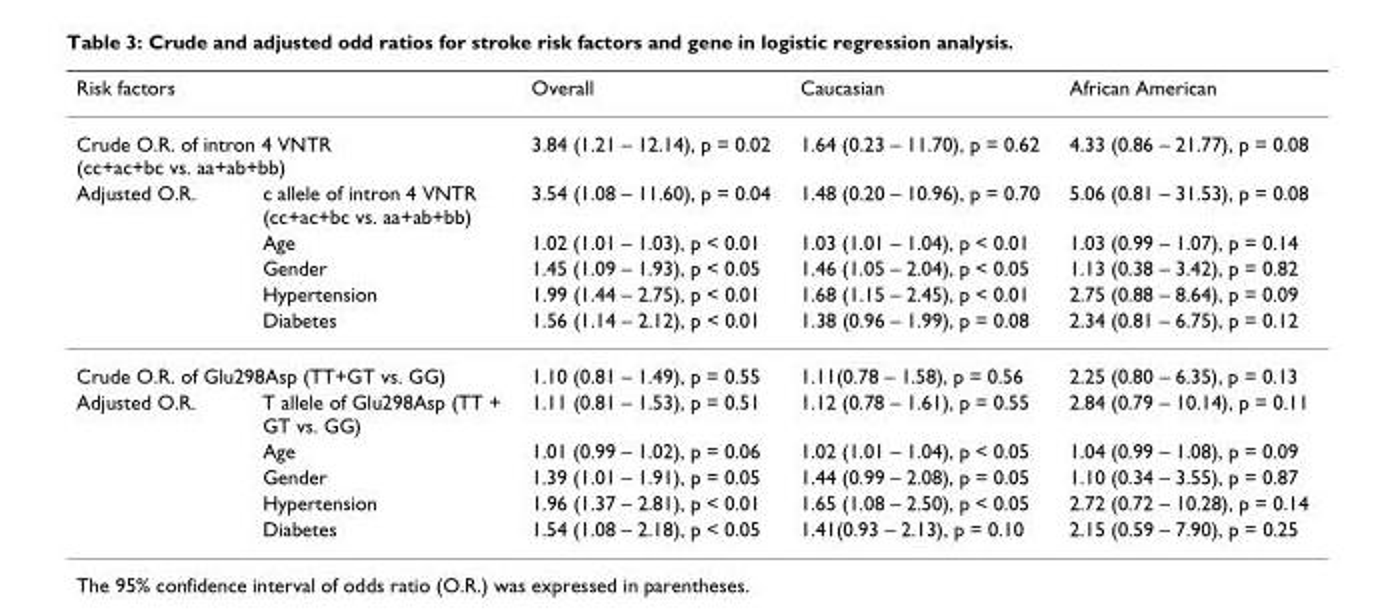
<table><thead><tr><td rowspan="2" colspan="2">Risk factors Crude O.R. of intron 4 VNTR (cc+ac+bc vs. aa+ab+bb)</td><td rowspan="3">Overall 3.84 (1.21 – 12.14), p = 0.02 3.54 (1.08 – 11.60), p = 0.04</td><td rowspan="3">Caucasian 1.64 (0.23 – 11.70), p = 0.62 1.48 (0.20 – 10.96), p = 0.70</td><td rowspan="3">African American 4.33 (0.86 – 21.77), p = 0.08 5.06 (0.81 – 31.53), p = 0.08</td></tr><tr></tr><tr><td>Adjusted O.R.</td><td>c allele of intron 4 VNTR (cc+ac+bc vs. aa+ab+bb)</td></tr></thead><tbody><tr><td></td><td>Age</td><td>1.02 (1.01 – 1.03), p &lt; 0.01</td><td>1.03 (1.01 – 1.04), p &lt; 0.01</td><td>1.03 (0.99 – 1.07), p = 0.14</td></tr><tr><td></td><td>Gender</td><td>1.45 (1.09 – 1.93), p &lt; 0.05</td><td>1.46 (1.05 – 2.04), p &lt; 0.05</td><td>1.13 (0.38 – 3.42), p = 0.82</td></tr><tr><td></td><td>Hypertension</td><td>1.99 (1.44 – 2.75), p &lt; 0.01</td><td>1.68 (1.15 – 2.45), p &lt; 0.01</td><td>2.75 (0.88 – 8.64), p = 0.09</td></tr><tr><td></td><td>Diabetes</td><td>1.56 (1.14 – 2.12), p &lt; 0.01</td><td>1.38 (0.96 – 1.99), p = 0.08</td><td>2.34 (0.81 – 6.75), p = 0.12</td></tr><tr><td colspan="2">Crude O.R. of Glu298Asp (TT+GT vs. GG)</td><td>1.10 (0.81 – 1.49), p = 0.55</td><td>1.11(0.78 – 1.58), p = 0.56</td><td>2.25 (0.80 – 6.35), p = 0.13</td></tr><tr><td rowspan="5">Adjusted O.R.</td><td>T allele of Glu298Asp (TT + GT vs. GG)</td><td>1.11 (0.81 – 1.53), p = 0.51</td><td>1.12 (0.78 – 1.61), p = 0.55</td><td>2.84 (0.79 – 10.14), p = 0.11</td></tr><tr><td>Age</td><td>1.01 (0.99 – 1.02), p = 0.06</td><td>1.02 (1.01 – 1.04), p &lt; 0.05</td><td>1.04 (0.99 – 1.08), p = 0.09</td></tr><tr><td>Gender</td><td>1.39 (1.01 – 1.91), p = 0.05</td><td>1.44 (0.99 – 2.08), p = 0.05</td><td>1.10 (0.34 – 3.55), p = 0.87</td></tr><tr><td>Hypertension</td><td>1.96 (1.37 – 2.81), p &lt; 0.01</td><td>1.65 (1.08 – 2.50), p &lt; 0.05</td><td>2.72 (0.72 – 10.28), p = 0.14</td></tr><tr><td>Diabetes</td><td>1.54 (1.08 – 2.18), p &lt; 0.05</td><td>1.41(0.93 – 2.13), p = 0.10</td><td>2.15 (0.59 – 7.90), p = 0.25</td></tr></tbody></table>